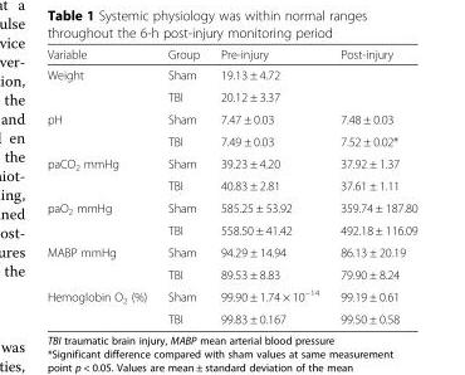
<table><thead><tr><td>Variable</td><td>Group</td><td>Pre-injury</td><td>Post-injury</td></tr></thead><tbody><tr><td rowspan="2">Weight</td><td>Sham</td><td colspan="2">19.13 ± 4.72</td></tr><tr><td>TBI</td><td colspan="2">20.12 ± 3.37</td></tr><tr><td rowspan="2">pH</td><td>Sham</td><td>7.47 ± 0.03</td><td>7.48 ± 0.03</td></tr><tr><td>TBI</td><td>7.49 ± 0.03</td><td>7.52 ± 0.02*</td></tr><tr><td rowspan="2">paCO<sub>2</sub> mmHg</td><td>Sham</td><td>39.23 ± 4.20</td><td>37.92 ± 1.37</td></tr><tr><td>TBI</td><td>40.83 ± 2.81</td><td>37.61 ± 1.11</td></tr><tr><td rowspan="2">paO<sub>2</sub> mmHg</td><td>Sham</td><td>585.25 ± 53.92</td><td>359.74 ± 187.80</td></tr><tr><td>TBI</td><td>558.50 ± 41.42</td><td>492.18 ± 116.09</td></tr><tr><td rowspan="2">MABP mmHg</td><td>Sham</td><td>94.29 ± 14.94</td><td>86.13 ± 20.19</td></tr><tr><td>TBI</td><td>89.53 ± 8.83</td><td>79.90 ± 8.24</td></tr><tr><td rowspan="2">Hemoglobin O<sub>2</sub> (%)</td><td>Sham</td><td>99.90 ± 1.74 × 10<sup>−14</sup></td><td>99.19 ± 0.61</td></tr><tr><td>TBI</td><td>99.83 ± 0.167</td><td>99.50 ± 0.58</td></tr></tbody></table>